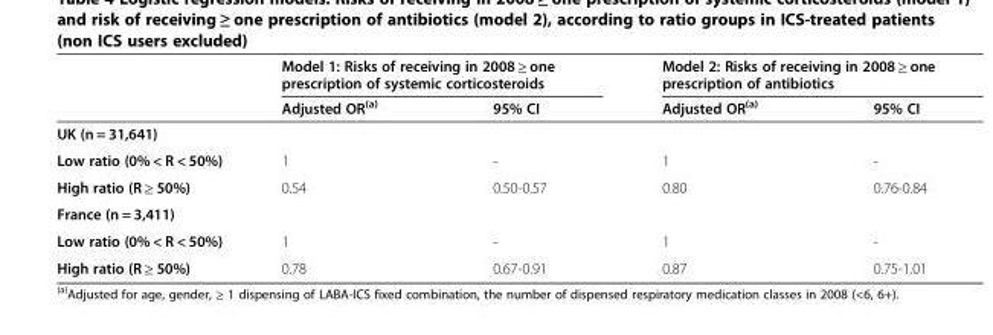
<table><thead><tr><td rowspan="2"></td><td colspan="2">Model 1: Risks of receiving in 2008 ≥ one prescription of systemic corticosteroids</td><td colspan="2">Model 2: Risks of receiving in 2008 ≥ one prescription of antibiotics</td></tr><tr><td>Adjusted OR<sup>(a)</sup></td><td>95% CI</td><td>Adjusted OR<sup>(a)</sup></td><td>95% CI</td></tr></thead><tbody><tr><td colspan="5">UK (n = 31,641)</td></tr><tr><td>Low ratio (0% &lt; R &lt; 50%)</td><td>1</td><td>-</td><td>1</td><td>-</td></tr><tr><td>High ratio (R ≥ 50%)</td><td>0.54</td><td>0.50-0.57</td><td>0.80</td><td>0.76-0.84</td></tr><tr><td colspan="5">France (n = 3,411)</td></tr><tr><td>Low ratio (0% &lt; R &lt; 50%)</td><td>1</td><td>-</td><td>1</td><td>-</td></tr><tr><td>High ratio (R ≥ 50%)</td><td>0.78</td><td>0.67-0.91</td><td>0.87</td><td>0.75-1.01</td></tr></tbody></table>